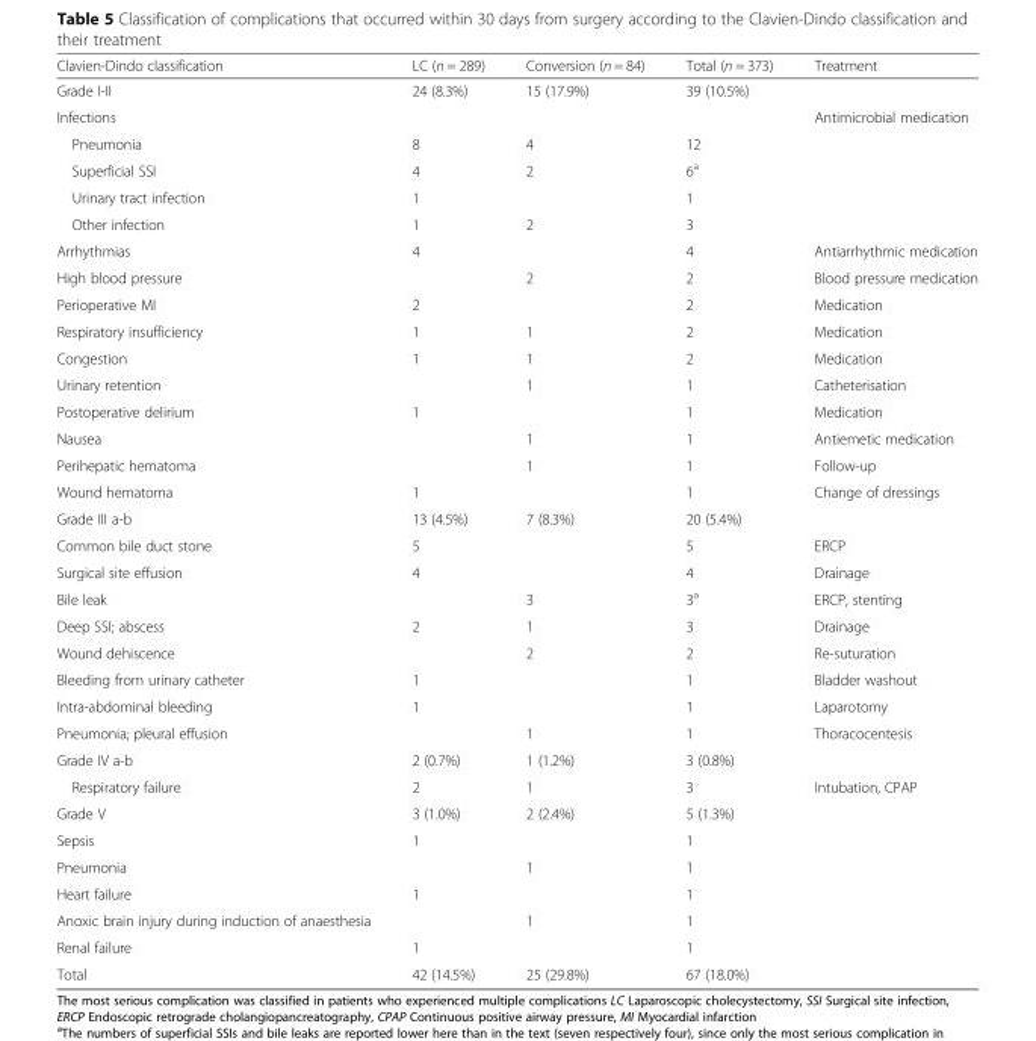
<table><thead><tr><td>Clavien-Dindo classification</td><td>LC (n = 289)</td><td>Conversion (n = 84)</td><td>Total (n = 373)</td><td>Treatment</td></tr></thead><tbody><tr><td>Grade I-II</td><td>24 (8.3%)</td><td>15 (17.9%)</td><td>39 (10.5%)</td><td></td></tr><tr><td>Infections</td><td></td><td></td><td></td><td>Antimicrobial medication</td></tr><tr><td>Pneumonia</td><td>8</td><td>4</td><td>12</td><td></td></tr><tr><td>Superficial SSI</td><td>4</td><td>2</td><td>6<sup>a</sup></td><td></td></tr><tr><td>Urinary tract infection</td><td>1</td><td></td><td>1</td><td></td></tr><tr><td>Other infection</td><td>1</td><td>2</td><td>3</td><td></td></tr><tr><td>Arrhythmias</td><td>4</td><td></td><td>4</td><td>Antiarrhythmic medication</td></tr><tr><td>High blood pressure</td><td></td><td>2</td><td>2</td><td>Blood pressure medication</td></tr><tr><td>Perioperative MI</td><td>2</td><td></td><td>2</td><td>Medication</td></tr><tr><td>Respiratory insufficiency</td><td>1</td><td>1</td><td>2</td><td>Medication</td></tr><tr><td>Congestion</td><td>1</td><td>1</td><td>2</td><td>Medication</td></tr><tr><td>Urinary retention</td><td></td><td>1</td><td>1</td><td>Catheterisation</td></tr><tr><td>Postoperative delirium</td><td>1</td><td></td><td>1</td><td>Medication</td></tr><tr><td>Nausea</td><td></td><td>1</td><td>1</td><td>Antiemetic medication</td></tr><tr><td>Perihepatic hematoma</td><td></td><td>1</td><td>1</td><td>Follow-up</td></tr><tr><td>Wound hematoma</td><td>1</td><td></td><td>1</td><td>Change of dressings</td></tr><tr><td>Grade III a-b</td><td>13 (4.5%)</td><td>7 (8.3%)</td><td>20 (5.4%)</td><td></td></tr><tr><td>Common bile duct stone</td><td>5</td><td></td><td>5</td><td>ERCP</td></tr><tr><td>Surgical site effusion</td><td>4</td><td></td><td>4</td><td>Drainage</td></tr><tr><td>Bile leak</td><td></td><td>3</td><td>3<sup>a</sup></td><td>ERCP, stenting</td></tr><tr><td>Deep SSI; abscess</td><td>2</td><td>1</td><td>3</td><td>Drainage</td></tr><tr><td>Wound dehiscence</td><td></td><td>2</td><td>2</td><td>Re-suturation</td></tr><tr><td>Bleeding from urinary catheter</td><td>1</td><td></td><td>1</td><td>Bladder washout</td></tr><tr><td>Intra-abdominal bleeding</td><td>1</td><td></td><td>1</td><td>Laparotomy</td></tr><tr><td>Pneumonia; pleural effusion</td><td></td><td>1</td><td>1</td><td>Thoracocentesis</td></tr><tr><td>Grade IV a-b</td><td>2 (0.7%)</td><td>1 (1.2%)</td><td>3 (0.8%)</td><td></td></tr><tr><td>Respiratory failure</td><td>2</td><td>1</td><td>3</td><td>Intubation, CPAP</td></tr><tr><td>Grade V</td><td>3 (1.0%)</td><td>2 (2.4%)</td><td>5 (1.3%)</td><td></td></tr><tr><td>Sepsis</td><td>1</td><td></td><td>1</td><td></td></tr><tr><td>Pneumonia</td><td></td><td>1</td><td>1</td><td></td></tr><tr><td>Heart failure</td><td>1</td><td></td><td>1</td><td></td></tr><tr><td>Anoxic brain injury during induction of anaesthesia</td><td></td><td>1</td><td>1</td><td></td></tr><tr><td>Renal failure</td><td>1</td><td></td><td>1</td><td></td></tr><tr><td>Total</td><td>42 (14.5%)</td><td>25 (29.8%)</td><td>67 (18.0%)</td><td></td></tr></tbody></table>